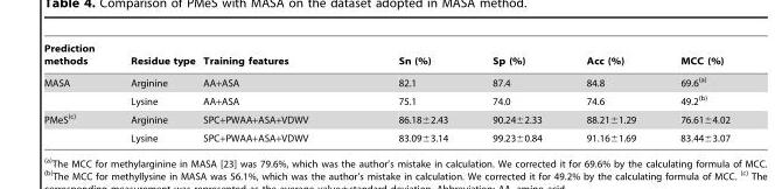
<table><thead><tr><td>Prediction methods</td><td>Residue type</td><td>Training features</td><td>Sn (%)</td><td>Sp (%)</td><td>Acc (%)</td><td>MCC (%)</td></tr></thead><tbody><tr><td rowspan="2">MASA</td><td>Arginine</td><td>AA+ASA</td><td>82.1</td><td>87.4</td><td>84.8</td><td>69.6(a)</td></tr><tr><td>Lysine</td><td>AA+ASA</td><td>75.1</td><td>74.0</td><td>74.6</td><td>49.2<sup>(b)</sup></td></tr><tr><td rowspan="2">PMeS<sup>(c)</sup></td><td>Arginine</td><td>SPC+PWAA+ASA+VDWV</td><td>86.18±2.43</td><td>90.24±2.33</td><td>88.21±1.29</td><td>76.61±4.02</td></tr><tr><td>Lysine</td><td>SPC+PWAA+ASA+VDWV</td><td>83.09±3.14</td><td>99.23±0.84</td><td>91.16±1.69</td><td>83.44±3.07</td></tr></tbody></table>